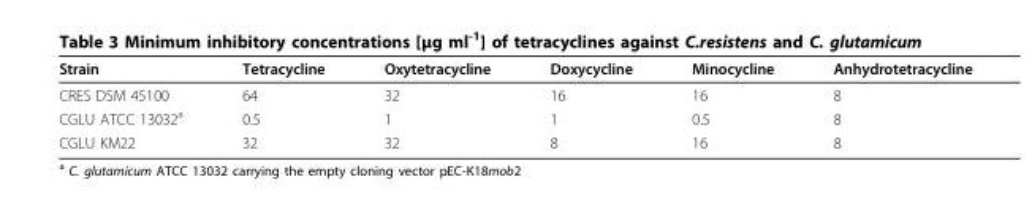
<table><thead><tr><td>Strain</td><td>Tetracycline</td><td>Oxytetracycline</td><td>Doxycycline</td><td>Minocycline</td><td>Anhydrotetracycline</td></tr></thead><tbody><tr><td>CRES DSM 45100</td><td>64</td><td>32</td><td>16</td><td>16</td><td>8</td></tr><tr><td>CGLU ATCC 13032<sup>a</sup></td><td>0.5</td><td>1</td><td>1</td><td>0.5</td><td>8</td></tr><tr><td>CGLU KM22</td><td>32</td><td>32</td><td>8</td><td>16</td><td>8</td></tr></tbody></table>